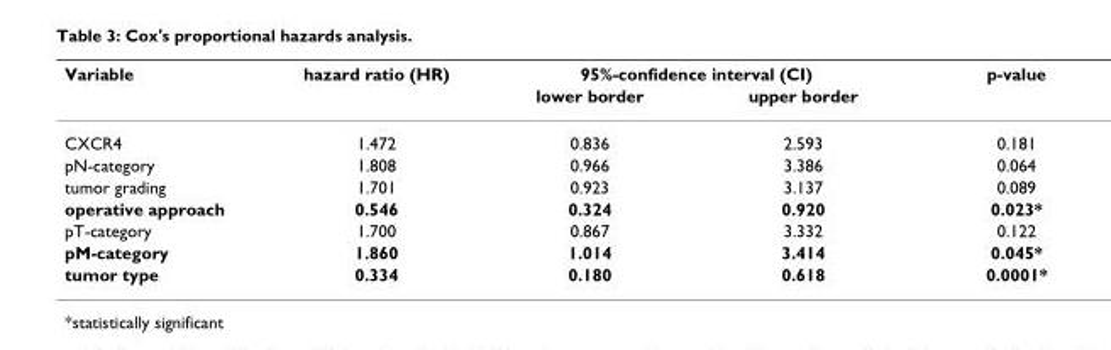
<table><thead><tr><td rowspan="2">Variable</td><td rowspan="2">hazard ratio (HR)</td><td colspan="2">95%-confidence interval (CI)</td><td rowspan="2">p-value</td></tr><tr><td>lower border</td><td>upper border</td></tr></thead><tbody><tr><td>CXCR4</td><td>1.472</td><td>0.836</td><td>2.593</td><td>0.181</td></tr><tr><td>pN-category</td><td>1.808</td><td>0.966</td><td>3.386</td><td>0.064</td></tr><tr><td>tumor grading</td><td>1.701</td><td>0.923</td><td>3.137</td><td>0.089</td></tr><tr><td>operative approach</td><td>0.546</td><td>0.324</td><td>0.920</td><td>0.023*</td></tr><tr><td>pT-category</td><td>1.700</td><td>0.867</td><td>3.332</td><td>0.122</td></tr><tr><td>pM-category</td><td>1.860</td><td>1.014</td><td>3.414</td><td>0.045*</td></tr><tr><td>tumor type</td><td>0.334</td><td>0.180</td><td>0.618</td><td>0.0001*</td></tr></tbody></table>